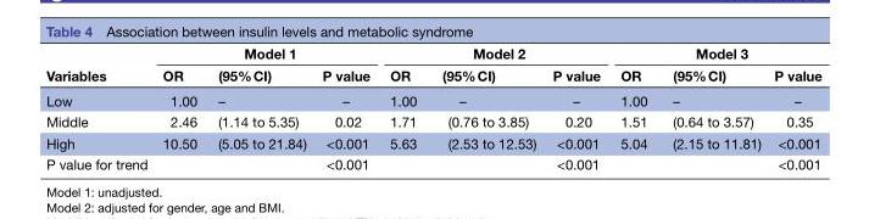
<table><thead><tr><td rowspan="2">Variables</td><td colspan="3">Model 1</td><td colspan="3">Model 2</td><td colspan="3">Model 3</td></tr><tr><td>OR</td><td>(95% CI)</td><td>P value</td><td>OR</td><td>(95% CI)</td><td>P value</td><td>OR</td><td>(95% CI)</td><td>P value</td></tr></thead><tbody><tr><td>Low</td><td>1.00</td><td>–</td><td>–</td><td>1.00</td><td>–</td><td>–</td><td>1.00</td><td>–</td><td>–</td></tr><tr><td>Middle</td><td>2.46</td><td>(1.14 to 5.35)</td><td>0.02</td><td>1.71</td><td>(0.76 to 3.85)</td><td>0.20</td><td>1.51</td><td>(0.64 to 3.57)</td><td>0.35</td></tr><tr><td>High</td><td>10.50</td><td>(5.05 to 21.84)</td><td>&lt;0.001</td><td>5.63</td><td>(2.53 to 12.53)</td><td>&lt;0.001</td><td>5.04</td><td>(2.15 to 11.81)</td><td>&lt;0.001</td></tr><tr><td>P value for trend</td><td></td><td></td><td>&lt;0.001</td><td></td><td></td><td>&lt;0.001</td><td></td><td></td><td>&lt;0.001</td></tr></tbody></table>